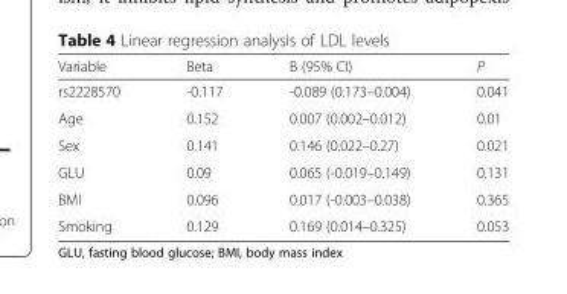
<table><thead><tr><td>Variable</td><td>Beta</td><td>B (95% CI)</td><td>P</td></tr></thead><tbody><tr><td>rs2228570</td><td>-0.117</td><td>-0.089 (0.173–0.004)</td><td>0.041</td></tr><tr><td>Age</td><td>0.152</td><td>0.007 (0.002–0.012)</td><td>0.01</td></tr><tr><td>Sex</td><td>0.141</td><td>0.146 (0.022–0.27)</td><td>0.021</td></tr><tr><td>GLU</td><td>0.09</td><td>0.065 (-0.019–0.149)</td><td>0.131</td></tr><tr><td>BMI</td><td>0.096</td><td>0.017 (-0.003–0.038)</td><td>0.365</td></tr><tr><td>Smoking</td><td>0.129</td><td>0.169 (0.014–0.325)</td><td>0.053</td></tr></tbody></table>